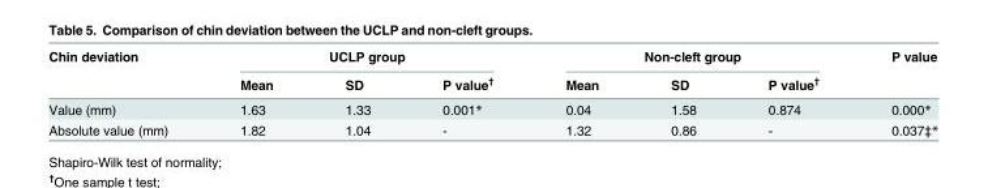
<table><thead><tr><td rowspan="2">Chin deviation</td><td colspan="3">UCLP group</td><td colspan="3">Non-cleft group</td><td rowspan="2">P value</td></tr><tr><td>Mean</td><td>SD</td><td>P value<sup>†</sup></td><td>Mean</td><td>SD</td><td>P value<sup>†</sup></td></tr></thead><tbody><tr><td>Value (mm)</td><td>1.63</td><td>1.33</td><td>0.001*</td><td>0.04</td><td>1.58</td><td>0.874</td><td>0.000*</td></tr><tr><td>Absolute value (mm)</td><td>1.82</td><td>1.04</td><td>-</td><td>1.32</td><td>0.86</td><td>-</td><td>0.037‡*</td></tr></tbody></table>